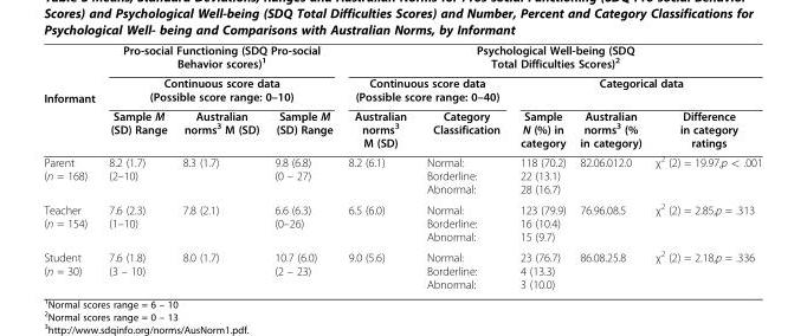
<table><thead><tr><td rowspan="3">Informant</td><td rowspan="2" colspan="3">Pro-social Functioning (SDQ Pro-social Behavior scores)<sup>1</sup> Continuous score data (Possible score range: 0–10)</td><td colspan="5">Psychological Well-being (SDQ Total Difficulties Scores)<sup>2</sup></td></tr><tr><td colspan="2">Continuous score data (Possible score range: 0–40)</td><td colspan="3">Categorical data</td></tr><tr><td>Sample M (SD) Range</td><td>Australian norms<sup>3</sup> M (SD)</td><td>Sample M (SD) Range</td><td>Australian norms<sup>3</sup> M (SD)</td><td>Category Classification</td><td>Sample N (%) in category</td><td>Australian norms<sup>3</sup> (% in category)</td><td>Difference in category ratings</td></tr></thead><tbody><tr><td>Parent (n = 168)</td><td>8.2 (1.7) (2–10)</td><td>8.3 (1.7)</td><td>9.8 (6.8) (0 – 27)</td><td>8.2 (6.1)</td><td>Normal: Borderline: Abnormal:</td><td>118 (70.2) 22 (13.1) 28 (16.7)</td><td>82.06.012.0</td><td>χ<sup>2</sup> (2) = 19.97,p &lt; .001</td></tr><tr><td>Teacher (n = 154)</td><td>7.6 (2.3) (1–10)</td><td>7.8 (2.1)</td><td>6.6 (6.3) (0–26)</td><td>6.5 (6.0)</td><td>Normal: Borderline: Abnormal:</td><td>123 (79.9) 16 (10.4) 15 (9.7)</td><td>76.96.08.5</td><td>χ<sup>2</sup> (2) = 2.85,p = .313</td></tr><tr><td>Student (n = 30)</td><td>7.6 (1.8) (3 – 10)</td><td>8.0 (1.7)</td><td>10.7 (6.0) (2 – 23)</td><td>9.0 (5.6)</td><td>Normal: Borderline: Abnormal:</td><td>23 (76.7) 4 (13.3) 3 (10.0)</td><td>86.08.25.8</td><td>χ<sup>2</sup> (2) = 2.18,p = .336</td></tr></tbody></table>